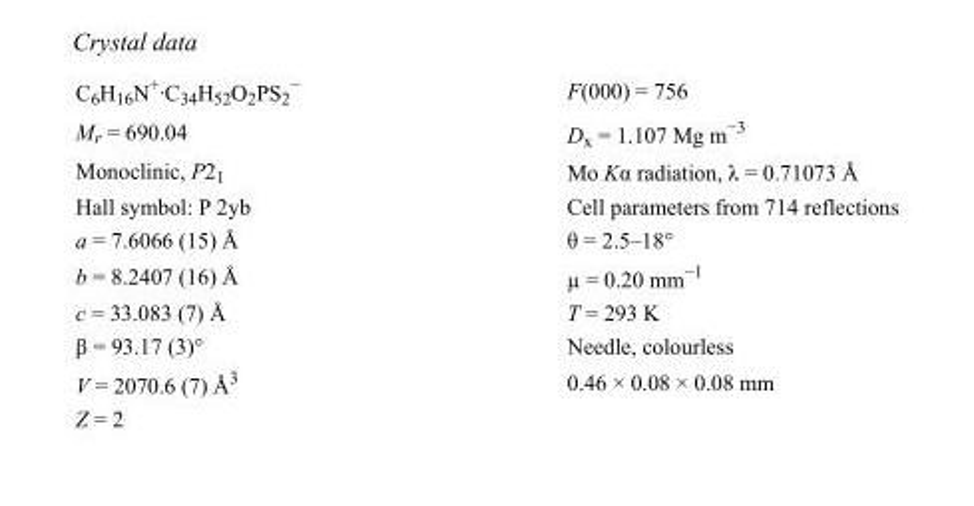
<table><tbody><tr><td>C<sub>6</sub>H<sub>16</sub>N<sup>+</sup>·C<sub>34</sub>H<sub>52</sub>O<sub>2</sub>PS<sub>2</sub> <sup>−</sup></td><td>F(000) = 756</td></tr><tr><td>M<sub>r</sub> = 690.04</td><td>D<sub>x</sub> = 1.107 Mg m<sup>−3</sup></td></tr><tr><td>Monoclinic, P2<sub>1</sub></td><td>Mo Kα radiation, λ = 0.71073 Å</td></tr><tr><td>Hall symbol: P 2yb</td><td>Cell parameters from 714 reflections</td></tr><tr><td>a = 7.6066 (15) Å</td><td>θ = 2.5–18°</td></tr><tr><td>b = 8.2407 (16) Å</td><td>µ = 0.20 mm<sup>−1</sup></td></tr><tr><td>c = 33.083 (7) Å</td><td>T = 293 K</td></tr><tr><td>β = 93.17 (3)°</td><td>Needle, colourless</td></tr><tr><td>V = 2070.6 (7) Å<sup>3</sup></td><td>0.46 × 0.08 × 0.08 mm</td></tr><tr><td>Z = 2</td><td></td></tr></tbody></table>